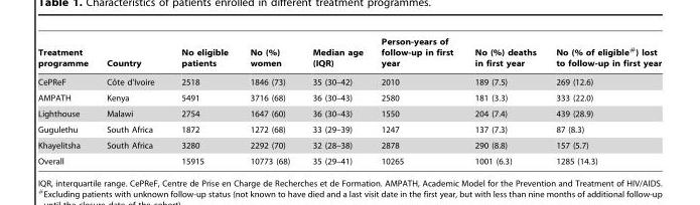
<table><thead><tr><td>Treatment programme</td><td>Country</td><td>No eligible patients</td><td>No (%) women</td><td>Median age (IQR)</td><td>Person-years of follow-up in first year</td><td>No (%) deaths in first year</td><td>No (% of eligible#) lost to follow-up in first year</td></tr></thead><tbody><tr><td>CePReF</td><td>Coˆte d’Ivoire</td><td>2518</td><td>1846 (73)</td><td>35 (30–42)</td><td>2010</td><td>189 (7.5)</td><td>269 (12.6)</td></tr><tr><td>AMPATH</td><td>Kenya</td><td>5491</td><td>3716 (68)</td><td>36 (30–43)</td><td>2580</td><td>181 (3.3)</td><td>333 (22.0)</td></tr><tr><td>Lighthouse</td><td>Malawi</td><td>2754</td><td>1647 (60)</td><td>36 (30–43)</td><td>1550</td><td>204 (7.4)</td><td>439 (28.9)</td></tr><tr><td>Gugulethu</td><td>South Africa</td><td>1872</td><td>1272 (68)</td><td>33 (29–39)</td><td>1247</td><td>137 (7.3)</td><td>87 (8.3)</td></tr><tr><td>Khayelitsha</td><td>South Africa</td><td>3280</td><td>2292 (70)</td><td>32 (28–38)</td><td>2878</td><td>290 (8.8)</td><td>157 (5.7)</td></tr><tr><td>Overall</td><td></td><td>15915</td><td>10773 (68)</td><td>35 (29–41)</td><td>10265</td><td>1001 (6.3)</td><td>1285 (14.3)</td></tr></tbody></table>